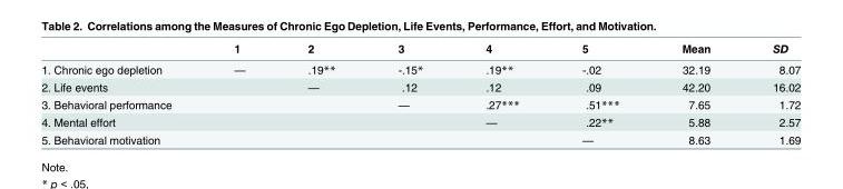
<table><thead><tr><td></td><td>1</td><td>2</td><td>3</td><td>4</td><td>5</td><td>Mean</td><td>SD</td></tr></thead><tbody><tr><td>1. Chronic ego depletion</td><td>—</td><td>.19**</td><td>-.15*</td><td>.19**</td><td>-.02</td><td>32.19</td><td>8.07</td></tr><tr><td>2. Life events</td><td></td><td>—</td><td>.12</td><td>.12</td><td>.09</td><td>42.20</td><td>16.02</td></tr><tr><td>3. Behavioral performance</td><td></td><td></td><td>—</td><td>.27***</td><td>.51***</td><td>7.65</td><td>1.72</td></tr><tr><td>4. Mental effort</td><td></td><td></td><td></td><td>—</td><td>.22**</td><td>5.88</td><td>2.57</td></tr><tr><td>5. Behavioral motivation</td><td></td><td></td><td></td><td></td><td>—</td><td>8.63</td><td>1.69</td></tr></tbody></table>